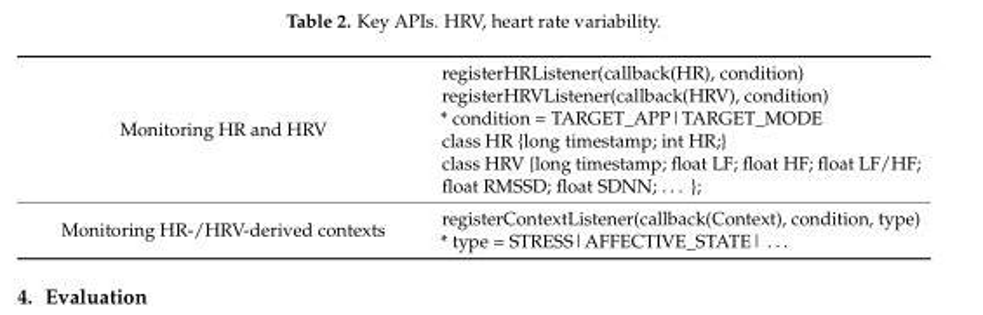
<table><tbody><tr><td>Monitoring HR and HRV</td><td>registerHRListener(callback(HR), condition) registerHRVListener(callback(HRV), condition) * condition = TARGET_APP|TARGET_MODE class HR {long timestamp; int HR;} class HRV {long timestamp; float LF; float HF; float LF/HF; float RMSSD; float SDNN; . . . };</td></tr><tr><td>Monitoring HR-/HRV-derived contexts</td><td>registerContextListener(callback(Context), condition, type) * type = STRESS|AFFECTIVE_STATE| . . .</td></tr></tbody></table>